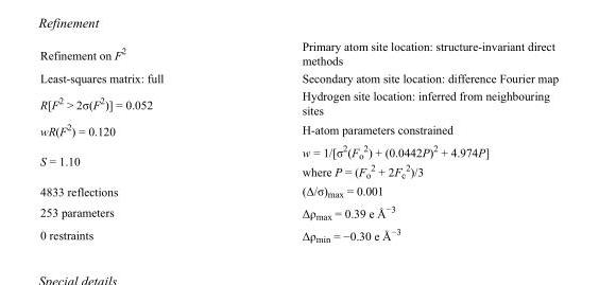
<table><tbody><tr><td>Refinement on F<sup>2</sup></td><td>Primary atom site location: structure-invariant direct methods</td></tr><tr><td>Least-squares matrix: full</td><td>Secondary atom site location: difference Fourier map</td></tr><tr><td>R[F<sup>2</sup> &gt; 2σ(F<sup>2</sup>)] = 0.052</td><td>Hydrogen site location: inferred from neighbouring sites</td></tr><tr><td>wR(F<sup>2</sup>) = 0.120</td><td>H-atom parameters constrained</td></tr><tr><td>S = 1.10</td><td>w = 1/[σ<sup>2</sup>(F<sub>o</sub> <sup>2</sup>) + (0.0442P)<sup>2</sup> + 4.974P] where P = (F<sub>o</sub> <sup>2</sup> + 2F<sub>c</sub> <sup>2</sup>)/3</td></tr><tr><td>4833 reflections</td><td>(Δ/σ)<sub>max</sub> = 0.001</td></tr><tr><td>253 parameters</td><td>Δρ<sub>max</sub> = 0.39 e Å<sup>−3</sup></td></tr><tr><td>0 restraints</td><td>Δρ<sub>min</sub> = −0.30 e Å<sup>−3</sup></td></tr></tbody></table>